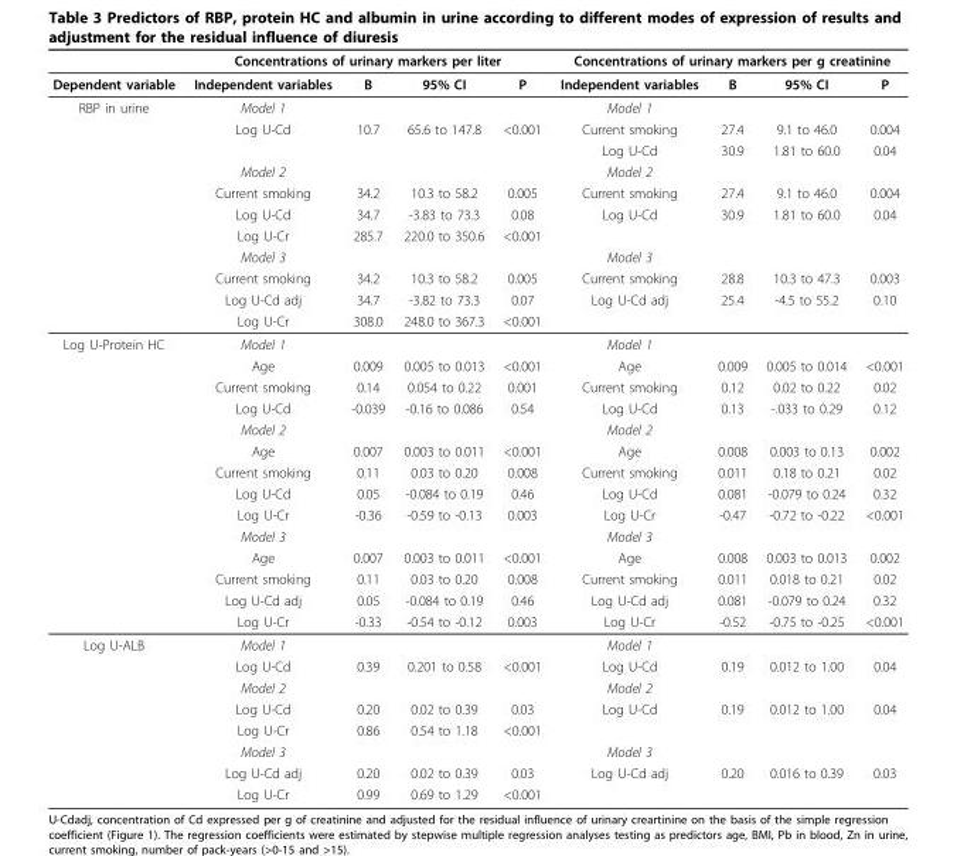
<table><thead><tr><td rowspan="2">Dependent variable</td><td colspan="4">Concentrations of urinary markers per liter</td><td colspan="4">Concentrations of urinary markers per g creatinine</td></tr><tr><td>Independent variables</td><td>B</td><td>95% CI</td><td>P</td><td>Independent variables</td><td>B</td><td>95% CI</td><td>P</td></tr></thead><tbody><tr><td rowspan="11">RBP in urine</td><td>Model 1</td><td></td><td></td><td></td><td>Model 1</td><td></td><td></td><td></td></tr><tr><td>Log U-Cd</td><td>10.7</td><td>65.6 to 147.8</td><td>&lt;0.001</td><td>Current smoking</td><td>27.4</td><td>9.1 to 46.0</td><td>0.004</td></tr><tr><td></td><td></td><td></td><td></td><td>Log U-Cd</td><td>30.9</td><td>1.81 to 60.0</td><td>0.04</td></tr><tr><td>Model 2</td><td></td><td></td><td></td><td>Model 2</td><td></td><td></td><td></td></tr><tr><td>Current smoking</td><td>34.2</td><td>10.3 to 58.2</td><td>0.005</td><td>Current smoking</td><td>27.4</td><td>9.1 to 46.0</td><td>0.004</td></tr><tr><td>Log U-Cd</td><td>34.7</td><td>-3.83 to 73.3</td><td>0.08</td><td>Log U-Cd</td><td>30.9</td><td>1.81 to 60.0</td><td>0.04</td></tr><tr><td>Log U-Cr</td><td>285.7</td><td>220.0 to 350.6</td><td>&lt;0.001</td><td></td><td></td><td></td><td></td></tr><tr><td>Model 3</td><td></td><td></td><td></td><td>Model 3</td><td></td><td></td><td></td></tr><tr><td>Current smoking</td><td>34.2</td><td>10.3 to 58.2</td><td>0.005</td><td>Current smoking</td><td>28.8</td><td>10.3 to 47.3</td><td>0.003</td></tr><tr><td>Log U-Cd adj</td><td>34.7</td><td>-3.82 to 73.3</td><td>0.07</td><td>Log U-Cd adj</td><td>25.4</td><td>-4.5 to 55.2</td><td>0.10</td></tr><tr><td>Log U-Cr</td><td>308.0</td><td>248.0 to 367.3</td><td>&lt;0.001</td><td></td><td></td><td></td><td></td></tr><tr><td rowspan="14">Log U-Protein HC</td><td>Model 1</td><td></td><td></td><td></td><td>Model 1</td><td></td><td></td><td></td></tr><tr><td>Age</td><td>0.009</td><td>0.005 to 0.013</td><td>&lt;0.001</td><td>Age</td><td>0.009</td><td>0.005 to 0.014</td><td>&lt;0.001</td></tr><tr><td>Current smoking</td><td>0.14</td><td>0.054 to 0.22</td><td>0.001</td><td>Current smoking</td><td>0.12</td><td>0.02 to 0.22</td><td>0.02</td></tr><tr><td>Log U-Cd</td><td>-0.039</td><td>-0.16 to 0.086</td><td>0.54</td><td>Log U-Cd</td><td>0.13</td><td>-.033 to 0.29</td><td>0.12</td></tr><tr><td>Model 2</td><td></td><td></td><td></td><td>Model 2</td><td></td><td></td><td></td></tr><tr><td>Age</td><td>0.007</td><td>0.003 to 0.011</td><td>&lt;0.001</td><td>Age</td><td>0.008</td><td>0.003 to 0.13</td><td>0.002</td></tr><tr><td>Current smoking</td><td>0.11</td><td>0.03 to 0.20</td><td>0.008</td><td>Current smoking</td><td>0.011</td><td>0.18 to 0.21</td><td>0.02</td></tr><tr><td>Log U-Cd</td><td>0.05</td><td>-0.084 to 0.19</td><td>0.46</td><td>Log U-Cd</td><td>0.081</td><td>-0.079 to 0.24</td><td>0.32</td></tr><tr><td>Log U-Cr</td><td>-0.36</td><td>-0.59 to -0.13</td><td>0.003</td><td>Log U-Cr</td><td>-0.47</td><td>-0.72 to -0.22</td><td>&lt;0.001</td></tr><tr><td>Model 3</td><td></td><td></td><td></td><td>Model 3</td><td></td><td></td><td></td></tr><tr><td>Age</td><td>0.007</td><td>0.003 to 0.011</td><td>&lt;0.001</td><td>Age</td><td>0.008</td><td>0.003 to 0.013</td><td>0.002</td></tr><tr><td>Current smoking</td><td>0.11</td><td>0.03 to 0.20</td><td>0.008</td><td>Current smoking</td><td>0.011</td><td>0.018 to 0.21</td><td>0.02</td></tr><tr><td>Log U-Cd adj</td><td>0.05</td><td>-0.084 to 0.19</td><td>0.46</td><td>Log U-Cd adj</td><td>0.081</td><td>-0.079 to 0.24</td><td>0.32</td></tr><tr><td>Log U-Cr</td><td>-0.33</td><td>-0.54 to -0.12</td><td>0.003</td><td>Log U-Cr</td><td>-0.52</td><td>-0.75 to -0.25</td><td>&lt;0.001</td></tr><tr><td rowspan="8">Log U-ALB</td><td>Model 1</td><td></td><td></td><td></td><td>Model 1</td><td></td><td></td><td></td></tr><tr><td>Log U-Cd</td><td>0.39</td><td>0.201 to 0.58</td><td>&lt;0.001</td><td>Log U-Cd</td><td>0.19</td><td>0.012 to 1.00</td><td>0.04</td></tr><tr><td>Model 2</td><td></td><td></td><td></td><td>Model 2</td><td></td><td></td><td></td></tr><tr><td>Log U-Cd</td><td>0.20</td><td>0.02 to 0.39</td><td>0.03</td><td>Log U-Cd</td><td>0.19</td><td>0.012 to 1.00</td><td>0.04</td></tr><tr><td>Log U-Cr</td><td>0.86</td><td>0.54 to 1.18</td><td>&lt;0.001</td><td></td><td></td><td></td><td></td></tr><tr><td>Model 3</td><td></td><td></td><td></td><td>Model 3</td><td></td><td></td><td></td></tr><tr><td>Log U-Cd adj</td><td>0.20</td><td>0.02 to 0.39</td><td>0.03</td><td>Log U-Cd adj</td><td>0.20</td><td>0.016 to 0.39</td><td>0.03</td></tr><tr><td>Log U-Cr</td><td>0.99</td><td>0.69 to 1.29</td><td>&lt;0.001</td><td></td><td></td><td></td><td></td></tr></tbody></table>